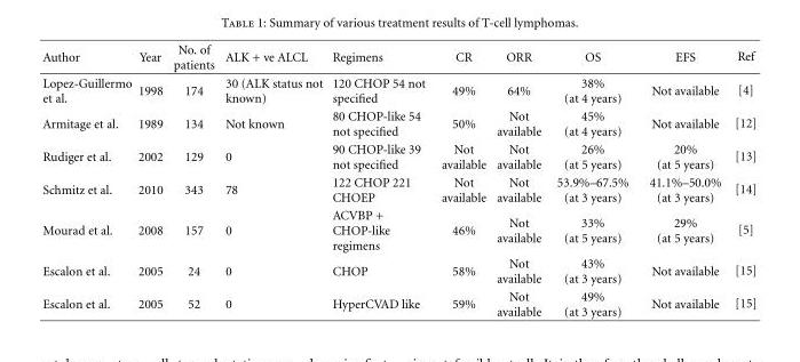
<table><thead><tr><td>Author</td><td>Year</td><td>No. of patients</td><td>ALK + ve ALCL</td><td>Regimens</td><td>CR</td><td>ORR</td><td>OS</td><td>EFS</td><td>Ref</td></tr></thead><tbody><tr><td>Lopez-Guillermo et al.</td><td>1998</td><td>174</td><td>30 (ALK status not known)</td><td>120 CHOP 54 not specified</td><td>49%</td><td>64%</td><td>38% (at 4 years)</td><td>Not available</td><td>[4]</td></tr><tr><td>Armitage et al.</td><td>1989</td><td>134</td><td>Not known</td><td>80 CHOP-like 54 not specified</td><td>50%</td><td>Not available</td><td>45% (at 4 years)</td><td>Not available</td><td>[12]</td></tr><tr><td>Rudiger et al.</td><td>2002</td><td>129</td><td>0</td><td>90 CHOP-like 39 not specified</td><td>Not available</td><td>Not available</td><td>26% (at 5 years)</td><td>20% (at 5 years)</td><td>[13]</td></tr><tr><td>Schmitz et al.</td><td>2010</td><td>343</td><td>78</td><td>122 CHOP 221 CHOEP</td><td>Not available</td><td>Not available</td><td>53.9%–67.5% (at 3 years)</td><td>41.1%–50.0% (at 3 years)</td><td>[14]</td></tr><tr><td>Mourad et al.</td><td>2008</td><td>157</td><td>0</td><td>ACVBP + CHOP-like regimens</td><td>46%</td><td>Not available</td><td>33% (at 5 years)</td><td>29% (at 5 years)</td><td>[5]</td></tr><tr><td>Escalon et al.</td><td>2005</td><td>24</td><td>0</td><td>CHOP</td><td>58%</td><td>Not available</td><td>43% (at 3 years)</td><td>Not available</td><td>[15]</td></tr><tr><td>Escalon et al.</td><td>2005</td><td>52</td><td>0</td><td>HyperCVAD like</td><td>59%</td><td>Not available</td><td>49% (at 3 years)</td><td>Not available</td><td>[15]</td></tr></tbody></table>